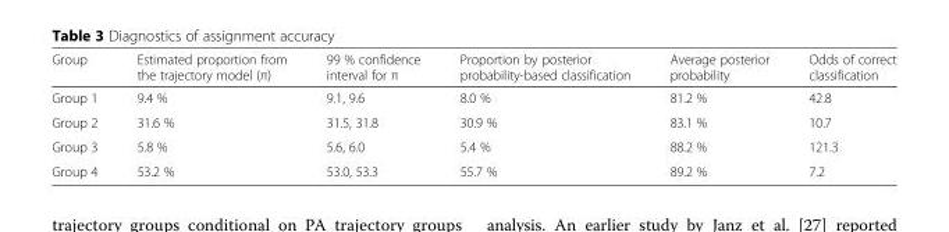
<table><thead><tr><td>Group</td><td>Estimated proportion from the trajectory model (π)</td><td>99 % confidence interval for π</td><td>Proportion by posterior probability-based classification</td><td>Average posterior probability</td><td>Odds of correct classification</td></tr></thead><tbody><tr><td>Group 1</td><td>9.4 %</td><td>9.1, 9.6</td><td>8.0 %</td><td>81.2 %</td><td>42.8</td></tr><tr><td>Group 2</td><td>31.6 %</td><td>31.5, 31.8</td><td>30.9 %</td><td>83.1 %</td><td>10.7</td></tr><tr><td>Group 3</td><td>5.8 %</td><td>5.6, 6.0</td><td>5.4 %</td><td>88.2 %</td><td>121.3</td></tr><tr><td>Group 4</td><td>53.2 %</td><td>53.0, 53.3</td><td>55.7 %</td><td>89.2 %</td><td>7.2</td></tr></tbody></table>